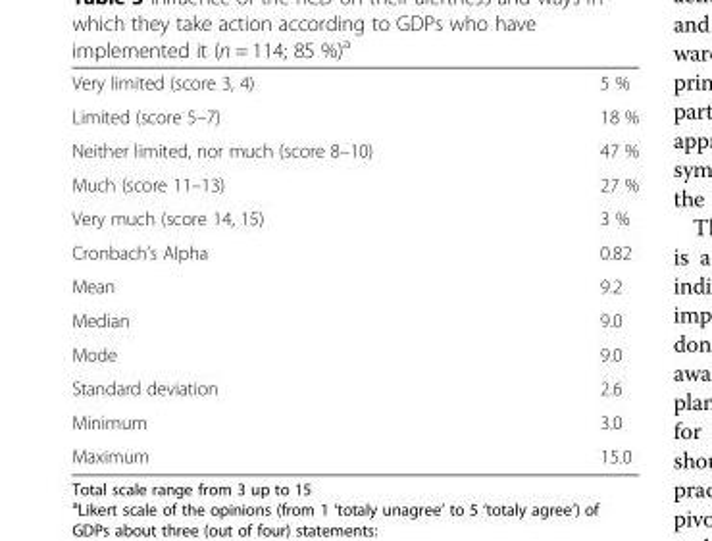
<table><tbody><tr><td>Very limited (score 3, 4)</td><td>5 %</td></tr><tr><td>Limited (score 5–7)</td><td>18 %</td></tr><tr><td>Neither limited, nor much (score 8–10)</td><td>47 %</td></tr><tr><td>Much (score 11–13)</td><td>27 %</td></tr><tr><td>Very much (score 14, 15)</td><td>3 %</td></tr><tr><td>Cronbach’s Alpha</td><td>0.82</td></tr><tr><td>Mean</td><td>9.2</td></tr><tr><td>Median</td><td>9.0</td></tr><tr><td>Mode</td><td>9.0</td></tr><tr><td>Standard deviation</td><td>2.6</td></tr><tr><td>Minimum</td><td>3.0</td></tr><tr><td>Maximum</td><td>15.0</td></tr></tbody></table>